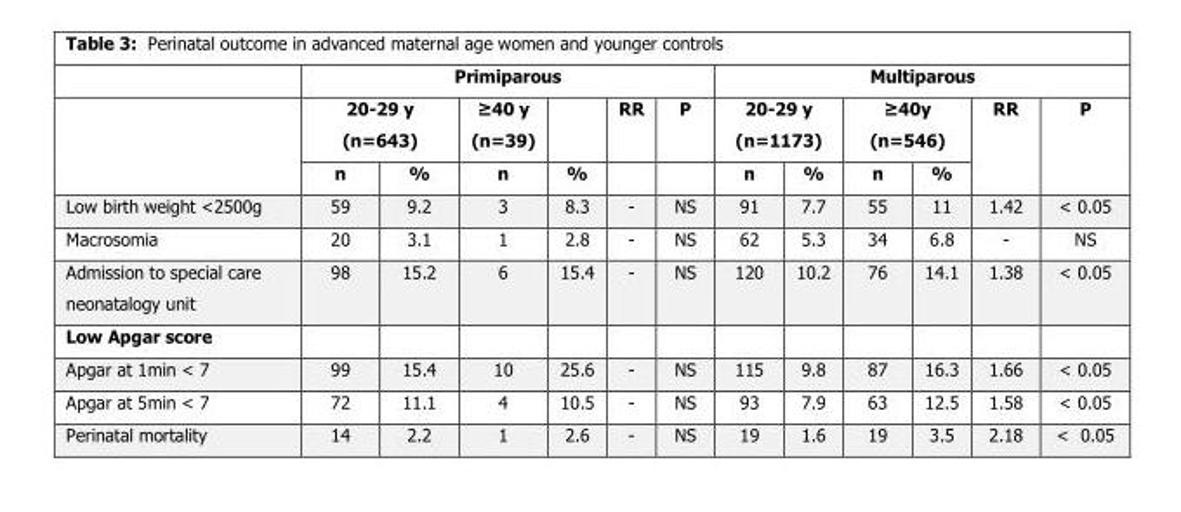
<table><thead><tr><td rowspan="3"></td><td colspan="6">Primiparous</td><td colspan="6">Multiparous</td></tr><tr><td colspan="2">20-29 y (n=643)</td><td colspan="2">≥40 y (n=39)</td><td rowspan="2">RR</td><td rowspan="2">P</td><td colspan="2">20-29 y (n=1173)</td><td colspan="2">≥40y (n=546)</td><td rowspan="2">RR</td><td rowspan="2">P</td></tr><tr><td>n</td><td>%</td><td>n</td><td>%</td><td>n</td><td>%</td><td>n</td><td>%</td></tr></thead><tbody><tr><td>Low birth weight &lt;2500g</td><td>59</td><td>9.2</td><td>3</td><td>8.3</td><td>-</td><td>NS</td><td>91</td><td>7.7</td><td>55</td><td>11</td><td>1.42</td><td>&lt; 0.05</td></tr><tr><td>Macrosomia</td><td>20</td><td>3.1</td><td>1</td><td>2.8</td><td>-</td><td>NS</td><td>62</td><td>5.3</td><td>34</td><td>6.8</td><td>-</td><td>NS</td></tr><tr><td>Admission to special care neonatalogy unit</td><td>98</td><td>15.2</td><td>6</td><td>15.4</td><td>-</td><td>NS</td><td>120</td><td>10.2</td><td>76</td><td>14.1</td><td>1.38</td><td>&lt; 0.05</td></tr><tr><td colspan="13">Low Apgar score</td></tr><tr><td>Apgar at 1min &lt; 7</td><td>99</td><td>15.4</td><td>10</td><td>25.6</td><td>-</td><td>NS</td><td>115</td><td>9.8</td><td>87</td><td>16.3</td><td>1.66</td><td>&lt; 0.05</td></tr><tr><td>Apgar at 5min &lt; 7</td><td>72</td><td>11.1</td><td>4</td><td>10.5</td><td>-</td><td>NS</td><td>93</td><td>7.9</td><td>63</td><td>12.5</td><td>1.58</td><td>&lt; 0.05</td></tr><tr><td>Perinatal mortality</td><td>14</td><td>2.2</td><td>1</td><td>2.6</td><td>-</td><td>NS</td><td>19</td><td>1.6</td><td>19</td><td>3.5</td><td>2.18</td><td>&lt; 0.05</td></tr></tbody></table>